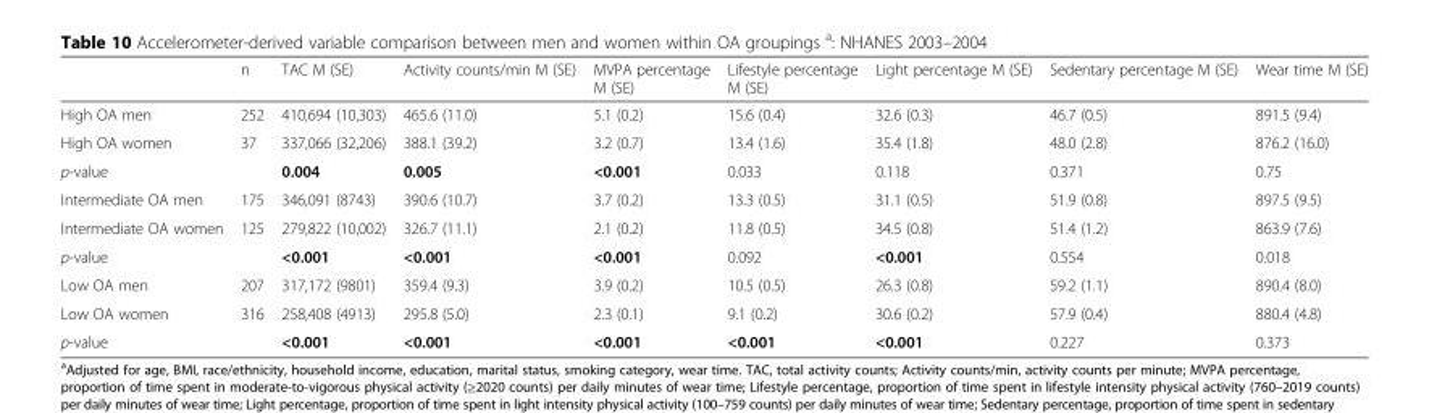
<table><thead><tr><td></td><td>n</td><td>TAC M (SE)</td><td>Activity counts/min M (SE)</td><td>MVPA percentage M (SE)</td><td>Lifestyle percentage M (SE)</td><td>Light percentage M (SE)</td><td>Sedentary percentage M (SE)</td><td>Wear time M (SE)</td></tr></thead><tbody><tr><td>High OA men</td><td>252</td><td>410,694 (10,303)</td><td>465.6 (11.0)</td><td>5.1 (0.2)</td><td>15.6 (0.4)</td><td>32.6 (0.3)</td><td>46.7 (0.5)</td><td>891.5 (9.4)</td></tr><tr><td>High OA women</td><td>37</td><td>337,066 (32,206)</td><td>388.1 (39.2)</td><td>3.2 (0.7)</td><td>13.4 (1.6)</td><td>35.4 (1.8)</td><td>48.0 (2.8)</td><td>876.2 (16.0)</td></tr><tr><td>p-value</td><td></td><td>0.004</td><td>0.005</td><td>&lt;0.001</td><td>0.033</td><td>0.118</td><td>0.371</td><td>0.75</td></tr><tr><td>Intermediate OA men</td><td>175</td><td>346,091 (8743)</td><td>390.6 (10.7)</td><td>3.7 (0.2)</td><td>13.3 (0.5)</td><td>31.1 (0.5)</td><td>51.9 (0.8)</td><td>897.5 (9.5)</td></tr><tr><td>Intermediate OA women</td><td>125</td><td>279,822 (10,002)</td><td>326.7 (11.1)</td><td>2.1 (0.2)</td><td>11.8 (0.5)</td><td>34.5 (0.8)</td><td>51.4 (1.2)</td><td>863.9 (7.6)</td></tr><tr><td>p-value</td><td></td><td>&lt;0.001</td><td>&lt;0.001</td><td>&lt;0.001</td><td>0.092</td><td>&lt;0.001</td><td>0.554</td><td>0.018</td></tr><tr><td>Low OA men</td><td>207</td><td>317,172 (9801)</td><td>359.4 (9.3)</td><td>3.9 (0.2)</td><td>10.5 (0.5)</td><td>26.3 (0.8)</td><td>59.2 (1.1)</td><td>890.4 (8.0)</td></tr><tr><td>Low OA women</td><td>316</td><td>258,408 (4913)</td><td>295.8 (5.0)</td><td>2.3 (0.1)</td><td>9.1 (0.2)</td><td>30.6 (0.2)</td><td>57.9 (0.4)</td><td>880.4 (4.8)</td></tr><tr><td>p-value</td><td></td><td>&lt;0.001</td><td>&lt;0.001</td><td>&lt;0.001</td><td>&lt;0.001</td><td>&lt;0.001</td><td>0.227</td><td>0.373</td></tr></tbody></table>